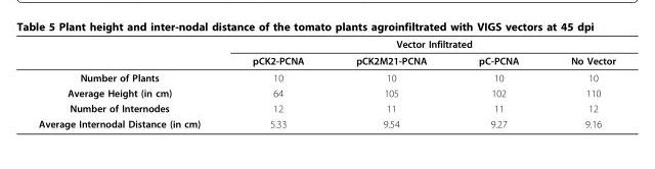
<table><thead><tr><td rowspan="2"></td><td colspan="4">Vector Infiltrated</td></tr><tr><td>pCK2-PCNA</td><td>pCK2M21-PCNA</td><td>pC-PCNA</td><td>No Vector</td></tr></thead><tbody><tr><td>Number of Plants</td><td>10</td><td>10</td><td>10</td><td>10</td></tr><tr><td>Average Height (in cm)</td><td>64</td><td>105</td><td>102</td><td>110</td></tr><tr><td>Number of Internodes</td><td>12</td><td>11</td><td>11</td><td>12</td></tr><tr><td>Average Internodal Distance (in cm)</td><td>5.33</td><td>9.54</td><td>9.27</td><td>9.16</td></tr></tbody></table>